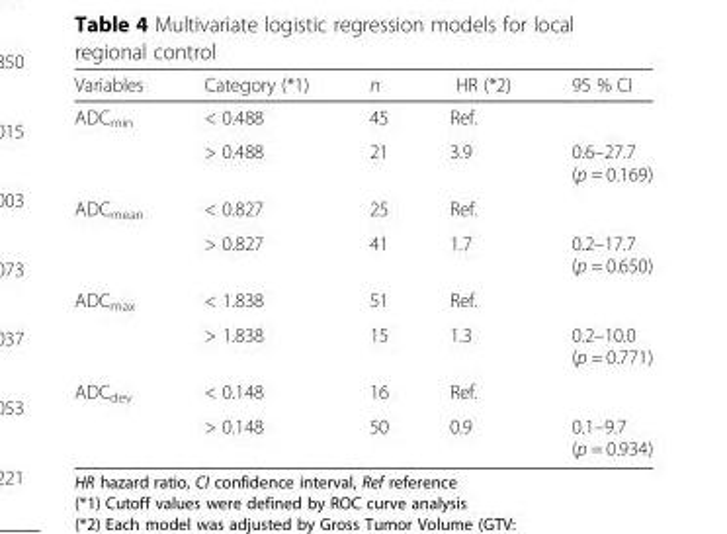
<table><thead><tr><td>Variables</td><td>Category (*1)</td><td>n</td><td>HR (*2)</td><td>95 % CI</td></tr></thead><tbody><tr><td rowspan="2">ADC<sub>min</sub></td><td>&lt; 0.488</td><td>45</td><td>Ref.</td><td></td></tr><tr><td>&gt; 0.488</td><td>21</td><td>3.9</td><td>0.6–27.7 (p = 0.169)</td></tr><tr><td rowspan="2">ADC<sub>mean</sub></td><td>&lt; 0.827</td><td>25</td><td>Ref.</td><td></td></tr><tr><td>&gt; 0.827</td><td>41</td><td>1.7</td><td>0.2–17.7 (p = 0.650)</td></tr><tr><td rowspan="2">ADC<sub>max</sub></td><td>&lt; 1.838</td><td>51</td><td>Ref.</td><td></td></tr><tr><td>&gt; 1.838</td><td>15</td><td>1.3</td><td>0.2–10.0 (p = 0.771)</td></tr><tr><td rowspan="2">ADC<sub>dev</sub></td><td>&lt; 0.148</td><td>16</td><td>Ref.</td><td></td></tr><tr><td>&gt; 0.148</td><td>50</td><td>0.9</td><td>0.1–9.7 (p = 0.934)</td></tr></tbody></table>